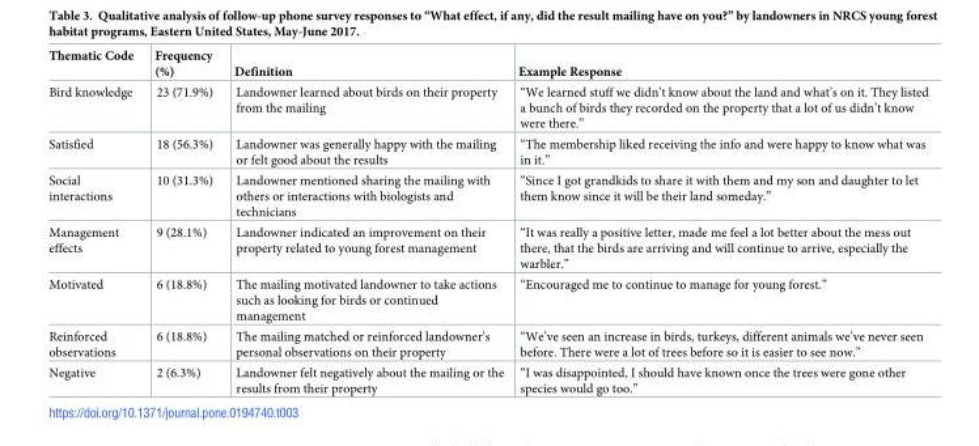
<table><thead><tr><td>Thematic Code</td><td>Frequency (%)</td><td>Definition</td><td>Example Response</td></tr></thead><tbody><tr><td>Bird knowledge</td><td>23 (71.9%)</td><td>Landowner learned about birds on their property from the mailing</td><td>“We learned stuff we didn’t know about the land and what’s on it. They listed a bunch of birds they recorded on the property that a lot of us didn’t know were there.”</td></tr><tr><td>Satisfied</td><td>18 (56.3%)</td><td>Landowner was generally happy with the mailing or felt good about the results</td><td>“The membership liked receiving the info and were happy to know what was in it.”</td></tr><tr><td>Social interactions</td><td>10 (31.3%)</td><td>Landowner mentioned sharing the mailing with others or interactions with biologists and technicians</td><td>“Since I got grandkids to share it with them and my son and daughter to let them know since it will be their land someday.”</td></tr><tr><td>Management effects</td><td>9 (28.1%)</td><td>Landowner indicated an improvement on their property related to young forest management</td><td>“It was really a positive letter, made me feel a lot better about the mess out there, that the birds are arriving and will continue to arrive, especially the warbler.”</td></tr><tr><td>Motivated</td><td>6 (18.8%)</td><td>The mailing motivated landowner to take actions such as looking for birds or continued management</td><td>“Encouraged me to continue to manage for young forest.”</td></tr><tr><td>Reinforced observations</td><td>6 (18.8%)</td><td>The mailing matched or reinforced landowner’s personal observations on their property</td><td>“We’ve seen an increase in birds, turkeys, different animals we’ve never seen before. There were a lot of trees before so it is easier to see now.”</td></tr><tr><td>Negative</td><td>2 (6.3%)</td><td>Landowner felt negatively about the mailing or the results from their property</td><td>“I was disappointed, I should have known once the trees were gone other species would go too.”</td></tr></tbody></table>